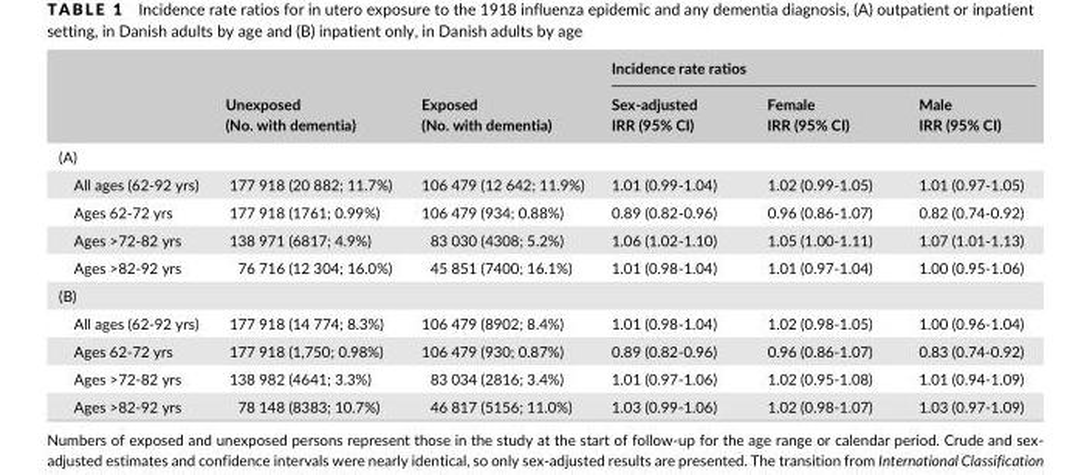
<table><thead><tr><td rowspan="2"></td><td rowspan="2">Unexposed (No. with dementia)</td><td rowspan="2">Exposed (No. with dementia)</td><td colspan="3">Incidence rate ratios</td></tr><tr><td>Sex- adjusted IRR (95% CI)</td><td>Female IRR (95% CI)</td><td>Male IRR (95% CI)</td></tr></thead><tbody><tr><td colspan="6">(A)</td></tr><tr><td>All ages (62- 92 yrs)</td><td>177 918 (20 882; 11.7%)</td><td>106 479 (12 642; 11.9%)</td><td>1.01 (0.99- 1.04)</td><td>1.02 (0.99- 1.05)</td><td>1.01 (0.97- 1.05)</td></tr><tr><td>Ages 62- 72 yrs</td><td>177 918 (1761; 0.99%)</td><td>106 479 (934; 0.88%)</td><td>0.89 (0.82- 0.96)</td><td>0.96 (0.86- 1.07)</td><td>0.82 (0.74- 0.92)</td></tr><tr><td>Ages &gt;72- 82 yrs</td><td>138 971 (6817; 4.9%)</td><td>83 030 (4308; 5.2%)</td><td>1.06 (1.02- 1.10)</td><td>1.05 (1.00- 1.11)</td><td>1.07 (1.01- 1.13)</td></tr><tr><td>Ages &gt;82- 92 yrs</td><td>76 716 (12 304; 16.0%)</td><td>45 851 (7400; 16.1%)</td><td>1.01 (0.98- 1.04)</td><td>1.01 (0.97- 1.04)</td><td>1.00 (0.95- 1.06)</td></tr><tr><td colspan="6">(B)</td></tr><tr><td>All ages (62- 92 yrs)</td><td>177 918 (14 774; 8.3%)</td><td>106 479 (8902; 8.4%)</td><td>1.01 (0.98- 1.04)</td><td>1.02 (0.98- 1.05)</td><td>1.00 (0.96- 1.04)</td></tr><tr><td>Ages 62- 72 yrs</td><td>177 918 (1,750; 0.98%)</td><td>106 479 (930; 0.87%)</td><td>0.89 (0.82- 0.96)</td><td>0.96 (0.86- 1.07)</td><td>0.83 (0.74- 0.92)</td></tr><tr><td>Ages &gt;72- 82 yrs</td><td>138 982 (4641; 3.3%)</td><td>83 034 (2816; 3.4%)</td><td>1.01 (0.97- 1.06)</td><td>1.02 (0.95- 1.08)</td><td>1.01 (0.94- 1.09)</td></tr><tr><td>Ages &gt;82- 92 yrs</td><td>78 148 (8383; 10.7%)</td><td>46 817 (5156; 11.0%)</td><td>1.03 (0.99- 1.06)</td><td>1.02 (0.98- 1.07)</td><td>1.03 (0.97- 1.09)</td></tr></tbody></table>